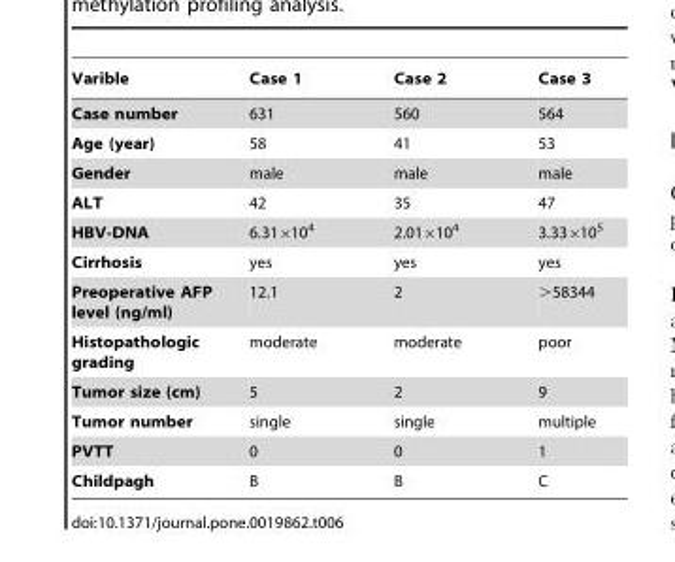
<table><thead><tr><td>Varible</td><td>Case 1</td><td>Case 2</td><td>Case 3</td></tr></thead><tbody><tr><td>Case number</td><td>631</td><td>560</td><td>564</td></tr><tr><td>Age (year)</td><td>58</td><td>41</td><td>53</td></tr><tr><td>Gender</td><td>male</td><td>male</td><td>male</td></tr><tr><td>ALT</td><td>42</td><td>35</td><td>47</td></tr><tr><td>HBV-DNA</td><td>6.31×10<sup>4</sup></td><td>2.01×10<sup>4</sup></td><td>3.33×10<sup>5</sup></td></tr><tr><td>Cirrhosis</td><td>yes</td><td>yes</td><td>yes</td></tr><tr><td>Preoperative AFP level (ng/ml)</td><td>12.1</td><td>2</td><td>&gt;58344</td></tr><tr><td>Histopathologic grading</td><td>moderate</td><td>moderate</td><td>poor</td></tr><tr><td>Tumor size (cm)</td><td>5</td><td>2</td><td>9</td></tr><tr><td>Tumor number</td><td>single</td><td>single</td><td>multiple</td></tr><tr><td>PVTT</td><td>0</td><td>0</td><td>1</td></tr><tr><td>Childpagh</td><td>B</td><td>B</td><td>C</td></tr></tbody></table>